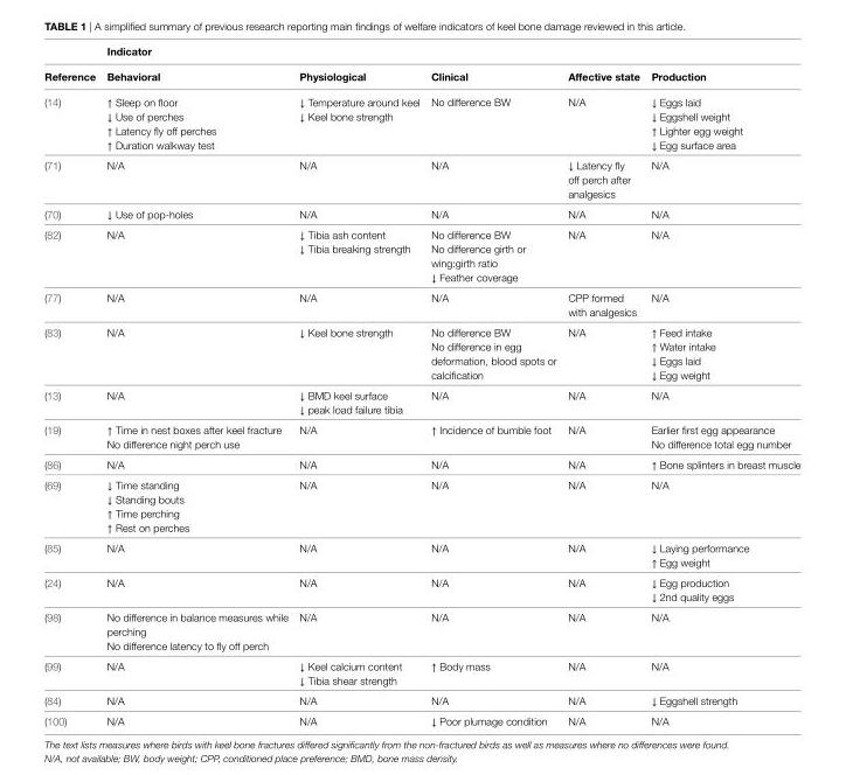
<table><thead><tr><td rowspan="2">Reference</td><td colspan="5">indicator</td></tr><tr><td>Behavioral</td><td>Physiological</td><td>Clinical</td><td>Affective state</td><td>Production</td></tr></thead><tbody><tr><td>(14)</td><td>↑ Sleep on floor ↓ Use of perches ↑ Latency fly off perches ↑ Duration walkway test</td><td>↓ Temperature around keel ↓ Keel bone strength</td><td>No difference BW</td><td>N/A</td><td>↓ Eggs laid ↓ Eggshell weight ↑ Lighter egg weight ↓ Egg surface area</td></tr><tr><td>(71)</td><td>N/A</td><td>N/A</td><td>N/A</td><td>↓ Latency fly off perch after analgesics</td><td>N/A</td></tr><tr><td>(70)</td><td>↓ Use of pop-holes</td><td>N/A</td><td>N/A</td><td>N/A</td><td>N/A</td></tr><tr><td>(82)</td><td>N/A</td><td>↓ Tibia ash content ↓ Tibia breaking strength</td><td>No difference BW No difference girth or wing:girth ratio ↓ Feather coverage</td><td>N/A</td><td>N/A</td></tr><tr><td>(77)</td><td>N/A</td><td>N/A</td><td>N/A</td><td>CPP formed with analgesics</td><td>N/A</td></tr><tr><td>(83)</td><td>N/A</td><td>↓ Keel bone strength</td><td>No difference BW No difference in egg deformation, blood spots or calcification</td><td>N/A</td><td>↑ Feed intake ↑ Water intake ↓ Eggs laid ↓ Egg weight</td></tr><tr><td>(13)</td><td>N/A</td><td>↓ BMD keel surface ↓ peak load failure tibia</td><td>N/A</td><td>N/A</td><td>N/A</td></tr><tr><td>(19)</td><td>↑ Time in nest boxes after keel fracture No difference night perch use</td><td>N/A</td><td>↑ Incidence of bumble foot</td><td>N/A</td><td>Earlier first egg appearance No difference total egg number</td></tr><tr><td>(86)</td><td>N/A</td><td>N/A</td><td>N/A</td><td>N/A</td><td>↑ Bone splinters in breast muscle</td></tr><tr><td>(69)</td><td>↓ Time standing ↓ Standing bouts ↑ Time perching ↑ Rest on perches</td><td>N/A</td><td>N/A</td><td>N/A</td><td>N/A</td></tr><tr><td>(85)</td><td>N/A</td><td>N/A</td><td>N/A</td><td>N/A</td><td>↓ Laying performance ↑ Egg weight</td></tr><tr><td>(24)</td><td>N/A</td><td>N/A</td><td>N/A</td><td>N/A</td><td>↓ Egg production ↓ 2nd quality eggs</td></tr><tr><td>(98)</td><td>No difference in balance measures while perching No difference latency to fly off perch</td><td>N/A</td><td>N/A</td><td>N/A</td><td>N/A</td></tr><tr><td>(99)</td><td>N/A</td><td>↓ Keel calcium content ↓ Tibia shear strength</td><td>↑ Body mass</td><td>N/A</td><td>N/A</td></tr><tr><td>(84)</td><td>N/A</td><td>N/A</td><td>N/A</td><td>N/A</td><td>↓ Eggshell strength</td></tr><tr><td>(100)</td><td>N/A</td><td>N/A</td><td>↓ Poor plumage condition</td><td>N/A</td><td>N/A</td></tr></tbody></table>